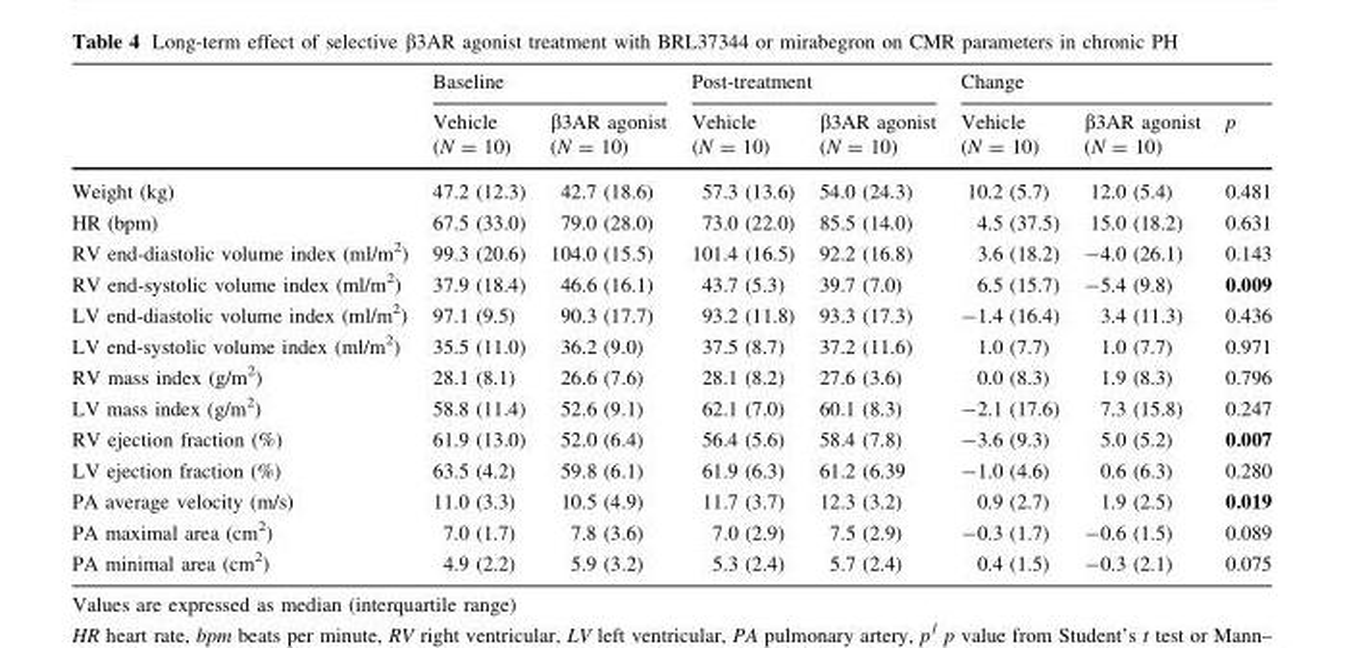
<table><thead><tr><td rowspan="2"></td><td colspan="2">Baseline</td><td colspan="2">Post-treatment</td><td colspan="3">Change</td></tr><tr><td>Vehicle (N = 10)</td><td>β3AR agonist (N = 10)</td><td>Vehicle (N = 10)</td><td>β3AR agonist (N = 10)</td><td>Vehicle (N = 10)</td><td>β3AR agonist (N = 10)</td><td>p</td></tr></thead><tbody><tr><td>Weight (kg)</td><td>47.2 (12.3)</td><td>42.7 (18.6)</td><td>57.3 (13.6)</td><td>54.0 (24.3)</td><td>10.2 (5.7)</td><td>12.0 (5.4)</td><td>0.481</td></tr><tr><td>HR (bpm)</td><td>67.5 (33.0)</td><td>79.0 (28.0)</td><td>73.0 (22.0)</td><td>85.5 (14.0)</td><td>4.5 (37.5)</td><td>15.0 (18.2)</td><td>0.631</td></tr><tr><td>RV end-diastolic volume index (ml/m<sup>2</sup>)</td><td>99.3 (20.6)</td><td>104.0 (15.5)</td><td>101.4 (16.5)</td><td>92.2 (16.8)</td><td>3.6 (18.2)</td><td>-4.0 (26.1)</td><td>0.143</td></tr><tr><td>RV end-systolic volume index (ml/m<sup>2</sup>)</td><td>37.9 (18.4)</td><td>46.6 (16.1)</td><td>43.7 (5.3)</td><td>39.7 (7.0)</td><td>6.5 (15.7)</td><td>-5.4 (9.8)</td><td>0.009</td></tr><tr><td>LV end-diastolic volume index (ml/m<sup>2</sup>)</td><td>97.1 (9.5)</td><td>90.3 (17.7)</td><td>93.2 (11.8)</td><td>93.3 (17.3)</td><td>-1.4 (16.4)</td><td>3.4 (11.3)</td><td>0.436</td></tr><tr><td>LV end-systolic volume index (ml/m<sup>2</sup>)</td><td>35.5 (11.0)</td><td>36.2 (9.0)</td><td>37.5 (8.7)</td><td>37.2 (11.6)</td><td>1.0 (7.7)</td><td>1.0 (7.7)</td><td>0.971</td></tr><tr><td>RV mass index (g/m<sup>2</sup>)</td><td>28.1 (8.1)</td><td>26.6 (7.6)</td><td>28.1 (8.2)</td><td>27.6 (3.6)</td><td>0.0 (8.3)</td><td>1.9 (8.3)</td><td>0.796</td></tr><tr><td>LV mass index (g/m<sup>2</sup>)</td><td>58.8 (11.4)</td><td>52.6 (9.1)</td><td>62.1 (7.0)</td><td>60.1 (8.3)</td><td>-2.1 (17.6)</td><td>7.3 (15.8)</td><td>0.247</td></tr><tr><td>RV ejection fraction (%)</td><td>61.9 (13.0)</td><td>52.0 (6.4)</td><td>56.4 (5.6)</td><td>58.4 (7.8)</td><td>-3.6 (9.3)</td><td>5.0 (5.2)</td><td>0.007</td></tr><tr><td>LV ejection fraction (%)</td><td>63.5 (4.2)</td><td>59.8 (6.1)</td><td>61.9 (6.3)</td><td>61.2 (6.39</td><td>-1.0 (4.6)</td><td>0.6 (6.3)</td><td>0.280</td></tr><tr><td>PA average velocity (m/s)</td><td>11.0 (3.3)</td><td>10.5 (4.9)</td><td>11.7 (3.7)</td><td>12.3 (3.2)</td><td>0.9 (2.7)</td><td>1.9 (2.5)</td><td>0.019</td></tr><tr><td>PA maximal area (cm<sup>2</sup>)</td><td>7.0 (1.7)</td><td>7.8 (3.6)</td><td>7.0 (2.9)</td><td>7.5 (2.9)</td><td>-0.3 (1.7)</td><td>-0.6 (1.5)</td><td>0.089</td></tr><tr><td>PA minimal area (cm<sup>2</sup>)</td><td>4.9 (2.2)</td><td>5.9 (3.2)</td><td>5.3 (2.4)</td><td>5.7 (2.4)</td><td>0.4 (1.5)</td><td>-0.3 (2.1)</td><td>0.075</td></tr></tbody></table>